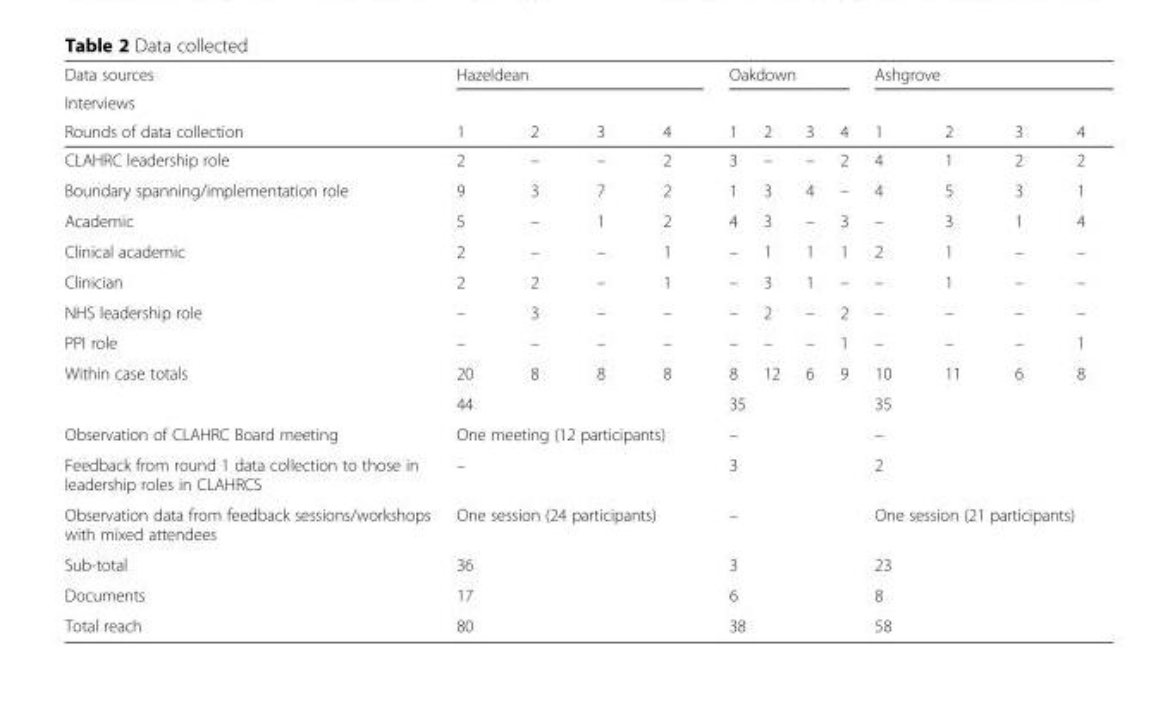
<table><thead><tr><td rowspan="3">Data sources Interviews Rounds of data collection</td><td colspan="4">Hazeldean</td><td colspan="4">Oakdown</td><td colspan="4">Ashgrove</td></tr><tr><td rowspan="2">1</td><td rowspan="2">2</td><td rowspan="2">3</td><td rowspan="2">4</td><td rowspan="2">1</td><td rowspan="2">2</td><td rowspan="2">3</td><td rowspan="2">4</td><td rowspan="2">1</td><td rowspan="2">2</td><td rowspan="2">3</td><td rowspan="2">4</td></tr><tr></tr></thead><tbody><tr><td>CLAHRC leadership role</td><td>2</td><td>–</td><td>–</td><td>2</td><td>3</td><td>–</td><td>–</td><td>2</td><td>4</td><td>1</td><td>2</td><td>2</td></tr><tr><td>Boundary spanning/implementation role</td><td>9</td><td>3</td><td>7</td><td>2</td><td>1</td><td>3</td><td>4</td><td>–</td><td>4</td><td>5</td><td>3</td><td>1</td></tr><tr><td>Academic</td><td>5</td><td>–</td><td>1</td><td>2</td><td>4</td><td>3</td><td>–</td><td>3</td><td>–</td><td>3</td><td>1</td><td>4</td></tr><tr><td>Clinical academic</td><td>2</td><td>–</td><td>–</td><td>1</td><td>–</td><td>1</td><td>1</td><td>1</td><td>2</td><td>1</td><td>–</td><td>–</td></tr><tr><td>Clinician</td><td>2</td><td>2</td><td>–</td><td>1</td><td>–</td><td>3</td><td>1</td><td>–</td><td>–</td><td>1</td><td>–</td><td>–</td></tr><tr><td>NHS leadership role</td><td>–</td><td>3</td><td>–</td><td>–</td><td>–</td><td>2</td><td>–</td><td>2</td><td>–</td><td>–</td><td>–</td><td>–</td></tr><tr><td>PPI role</td><td>–</td><td>–</td><td>–</td><td>–</td><td>–</td><td>–</td><td>–</td><td>1</td><td>–</td><td>–</td><td>–</td><td>1</td></tr><tr><td rowspan="2">Within case totals</td><td>20</td><td>8</td><td>8</td><td>8</td><td>8</td><td>12</td><td>6</td><td>9</td><td>10</td><td>11</td><td>6</td><td>8</td></tr><tr><td colspan="4">44</td><td colspan="4">35</td><td colspan="4">35</td></tr><tr><td>Observation of CLAHRC Board meeting</td><td colspan="4">One meeting (12 participants)</td><td colspan="4">–</td><td colspan="4">–</td></tr><tr><td>Feedback from round 1 data collection to those in leadership roles in CLAHRCS</td><td colspan="4">–</td><td colspan="4">3</td><td colspan="4">2</td></tr><tr><td>Observation data from feedback sessions/workshops with mixed attendees</td><td colspan="4">One session (24 participants)</td><td colspan="4">–</td><td colspan="4">One session (21 participants)</td></tr><tr><td>Sub-total</td><td colspan="4">36</td><td colspan="4">3</td><td colspan="4">23</td></tr><tr><td>Documents</td><td colspan="4">17</td><td colspan="4">6</td><td colspan="4">8</td></tr><tr><td>Total reach</td><td colspan="4">80</td><td colspan="4">38</td><td colspan="4">58</td></tr></tbody></table>